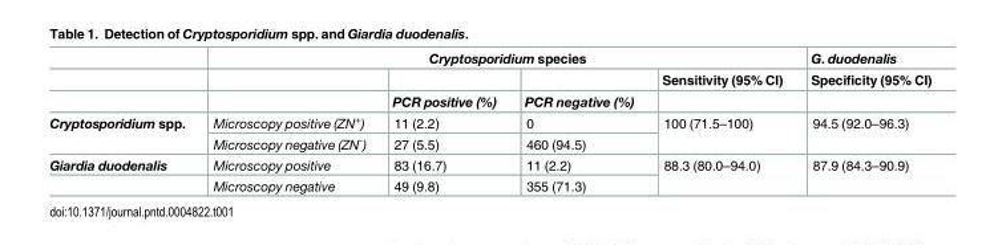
<table><thead><tr><td rowspan="3"></td><td colspan="4">Cryptosporidium species</td><td rowspan="3">G. duodenalis Specificity (95% CI)</td></tr><tr><td rowspan="2"></td><td rowspan="2">PCR positive (%)</td><td rowspan="2">PCR negative (%)</td><td rowspan="2">Sensitivity (95% CI)</td></tr><tr></tr></thead><tbody><tr><td rowspan="2">Cryptosporidium spp.</td><td>Microscopy positive (ZN<sup>+</sup>)</td><td>11 (2.2)</td><td>0</td><td rowspan="2">100 (71.5–100)</td><td rowspan="2">94.5 (92.0–96.3)</td></tr><tr><td>Microscopy negative (ZN<sup>-</sup>)</td><td>27 (5.5)</td><td>460 (94.5)</td></tr><tr><td rowspan="2">Giardia duodenalis</td><td>Microscopy positive</td><td>83 (16.7)</td><td>11 (2.2)</td><td rowspan="2">88.3 (80.0–94.0)</td><td rowspan="2">87.9 (84.3–90.9)</td></tr><tr><td>Microscopy negative</td><td>49 (9.8)</td><td>355 (71.3)</td></tr></tbody></table>